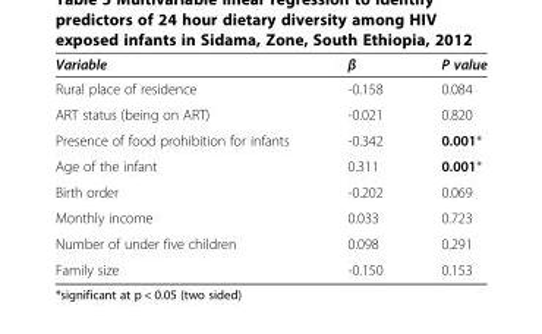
<table><thead><tr><td>Variable</td><td>β</td><td>P value</td></tr></thead><tbody><tr><td>Rural place of residence</td><td>-0.158</td><td>0.084</td></tr><tr><td>ART status (being on ART)</td><td>-0.021</td><td>0.820</td></tr><tr><td>Presence of food prohibition for infants</td><td>-0.342</td><td>0.001*</td></tr><tr><td>Age of the infant</td><td>0.311</td><td>0.001*</td></tr><tr><td>Birth order</td><td>-0.202</td><td>0.069</td></tr><tr><td>Monthly income</td><td>0.033</td><td>0.723</td></tr><tr><td>Number of under five children</td><td>0.098</td><td>0.291</td></tr><tr><td>Family size</td><td>-0.150</td><td>0.153</td></tr></tbody></table>